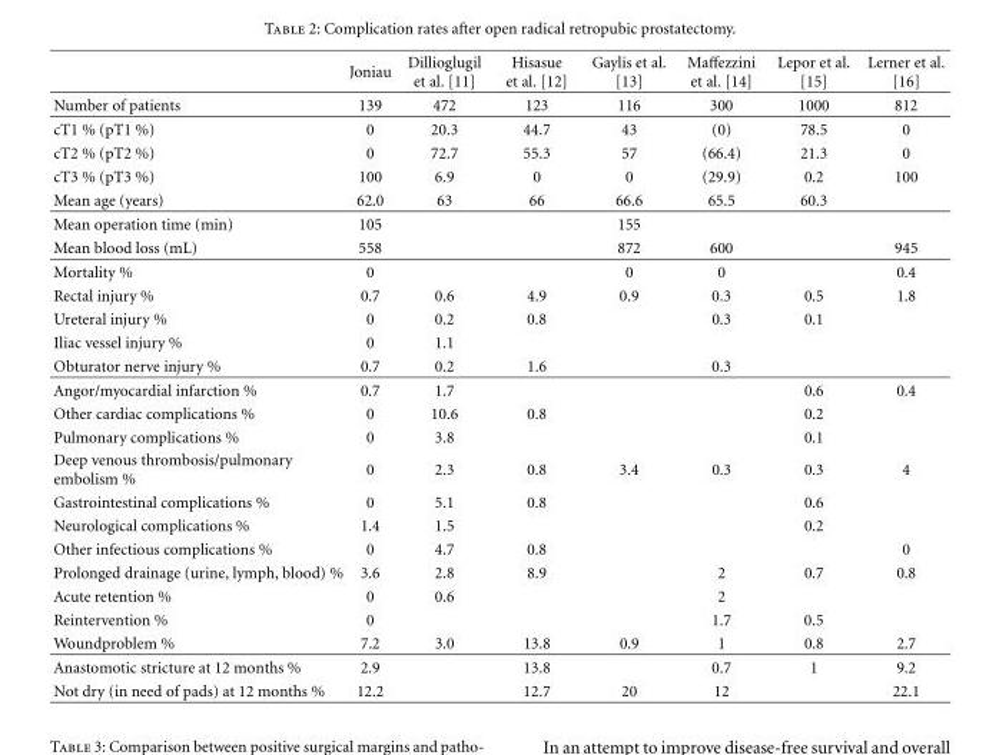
<table><thead><tr><td></td><td>Joniau</td><td>Dillioglugil et al. [11]</td><td>Hisasue et al. [12]</td><td>Gaylis et al. [13]</td><td>Maffezzini et al. [14]</td><td>Lepor et al. [15]</td><td>Lerner et al. [16]</td></tr></thead><tbody><tr><td>Number of patients</td><td>139</td><td>472</td><td>123</td><td>116</td><td>300</td><td>1000</td><td>812</td></tr><tr><td>cT1 % (pT1 %)</td><td>0</td><td>20.3</td><td>44.7</td><td>43</td><td>(0)</td><td>78.5</td><td>0</td></tr><tr><td>cT2 % (pT2 %)</td><td>0</td><td>72.7</td><td>55.3</td><td>57</td><td>(66.4)</td><td>21.3</td><td>0</td></tr><tr><td>cT3 % (pT3 %)</td><td>100</td><td>6.9</td><td>0</td><td>0</td><td>(29.9)</td><td>0.2</td><td>100</td></tr><tr><td>Mean age (years)</td><td>62.0</td><td>63</td><td>66</td><td>66.6</td><td>65.5</td><td>60.3</td><td></td></tr><tr><td>Mean operation time (min)</td><td>105</td><td></td><td></td><td>155</td><td></td><td></td><td></td></tr><tr><td>Mean blood loss (mL)</td><td>558</td><td></td><td></td><td>872</td><td>600</td><td></td><td>945</td></tr><tr><td>Mortality %</td><td>0</td><td></td><td></td><td>0</td><td>0</td><td></td><td>0.4</td></tr><tr><td>Rectal injury %</td><td>0.7</td><td>0.6</td><td>4.9</td><td>0.9</td><td>0.3</td><td>0.5</td><td>1.8</td></tr><tr><td>Ureteral injury %</td><td>0</td><td>0.2</td><td>0.8</td><td></td><td>0.3</td><td>0.1</td><td></td></tr><tr><td>Iliac vessel injury %</td><td>0</td><td>1.1</td><td></td><td></td><td></td><td></td><td></td></tr><tr><td>Obturator nerve injury %</td><td>0.7</td><td>0.2</td><td>1.6</td><td></td><td>0.3</td><td></td><td></td></tr><tr><td>Angor/myocardial infarction %</td><td>0.7</td><td>1.7</td><td></td><td></td><td></td><td>0.6</td><td>0.4</td></tr><tr><td>Other cardiac complications %</td><td>0</td><td>10.6</td><td>0.8</td><td></td><td></td><td>0.2</td><td></td></tr><tr><td>Pulmonary complications %</td><td>0</td><td>3.8</td><td></td><td></td><td></td><td>0.1</td><td></td></tr><tr><td>Deep venous thrombosis/pulmonary embolism %</td><td>0</td><td>2.3</td><td>0.8</td><td>3.4</td><td>0.3</td><td>0.3</td><td>4</td></tr><tr><td>Gastrointestinal complications %</td><td>0</td><td>5.1</td><td>0.8</td><td></td><td></td><td>0.6</td><td></td></tr><tr><td>Neurological complications %</td><td>1.4</td><td>1.5</td><td></td><td></td><td></td><td>0.2</td><td></td></tr><tr><td>Other infectious complications %</td><td>0</td><td>4.7</td><td>0.8</td><td></td><td></td><td></td><td>0</td></tr><tr><td>Prolonged drainage (urine, lymph, blood) %</td><td>3.6</td><td>2.8</td><td>8.9</td><td></td><td>2</td><td>0.7</td><td>0.8</td></tr><tr><td>Acute retention %</td><td>0</td><td>0.6</td><td></td><td></td><td>2</td><td></td><td></td></tr><tr><td>Reintervention %</td><td>0</td><td></td><td></td><td></td><td>1.7</td><td>0.5</td><td></td></tr><tr><td>Woundproblem %</td><td>7.2</td><td>3.0</td><td>13.8</td><td>0.9</td><td>1</td><td>0.8</td><td>2.7</td></tr><tr><td>Anastomotic stricture at 12 months %</td><td>2.9</td><td></td><td>13.8</td><td></td><td>0.7</td><td>1</td><td>9.2</td></tr><tr><td>Not dry (in need of pads) at 12 months %</td><td>12.2</td><td></td><td>12.7</td><td>20</td><td>12</td><td></td><td>22.1</td></tr></tbody></table>